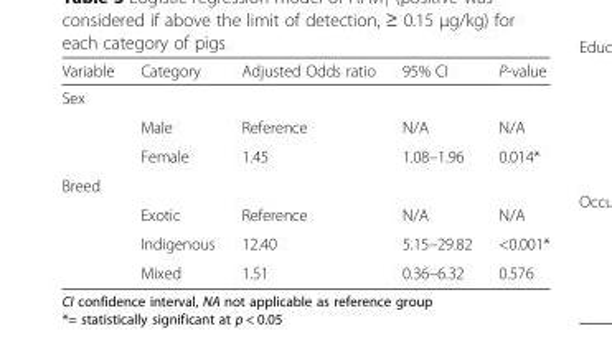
<table><thead><tr><td>Variable</td><td>Category</td><td>Adjusted Odds ratio</td><td>95% CI</td><td>P-value</td></tr></thead><tbody><tr><td colspan="5">Sex</td></tr><tr><td></td><td>Male</td><td>Reference</td><td>N/A</td><td>N/A</td></tr><tr><td></td><td>Female</td><td>1.45</td><td>1.08–1.96</td><td>0.014*</td></tr><tr><td colspan="5">Breed</td></tr><tr><td></td><td>Exotic</td><td>Reference</td><td>N/A</td><td>N/A</td></tr><tr><td></td><td>Indigenous</td><td>12.40</td><td>5.15–29.82</td><td>&lt;0.001*</td></tr><tr><td></td><td>Mixed</td><td>1.51</td><td>0.36–6.32</td><td>0.576</td></tr></tbody></table>